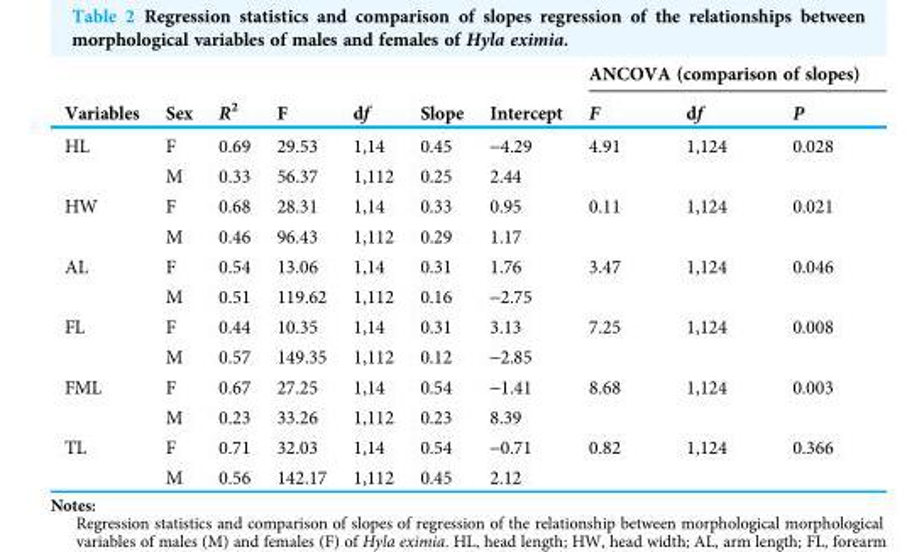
<table><thead><tr><td rowspan="2">Variables</td><td rowspan="2">Sex</td><td rowspan="2">R<sup>2</sup></td><td rowspan="2">F</td><td rowspan="2">df</td><td rowspan="2">Slope</td><td rowspan="2">Intercept</td><td colspan="3">ANCOVA (comparison of slopes)</td></tr><tr><td>F</td><td>df</td><td>P</td></tr></thead><tbody><tr><td rowspan="2">HL</td><td>F</td><td>0.69</td><td>29.53</td><td>1,14</td><td>0.45</td><td>-4.29</td><td rowspan="2">4.91</td><td rowspan="2">1,124</td><td rowspan="2">0.028</td></tr><tr><td>M</td><td>0.33</td><td>56.37</td><td>1,112</td><td>0.25</td><td>2.44</td></tr><tr><td rowspan="2">HW</td><td>F</td><td>0.68</td><td>28.31</td><td>1,14</td><td>0.33</td><td>0.95</td><td rowspan="2">0.11</td><td rowspan="2">1,124</td><td rowspan="2">0.021</td></tr><tr><td>M</td><td>0.46</td><td>96.43</td><td>1,112</td><td>0.29</td><td>1.17</td></tr><tr><td rowspan="2">AL</td><td>F</td><td>0.54</td><td>13.06</td><td>1,14</td><td>0.31</td><td>1.76</td><td rowspan="2">3.47</td><td rowspan="2">1,124</td><td rowspan="2">0.046</td></tr><tr><td>M</td><td>0.51</td><td>119.62</td><td>1,112</td><td>0.16</td><td>-2.75</td></tr><tr><td rowspan="2">FL</td><td>F</td><td>0.44</td><td>10.35</td><td>1,14</td><td>0.31</td><td>3.13</td><td rowspan="2">7.25</td><td rowspan="2">1,124</td><td rowspan="2">0.008</td></tr><tr><td>M</td><td>0.57</td><td>149.35</td><td>1,112</td><td>0.12</td><td>-2.85</td></tr><tr><td rowspan="2">FML</td><td>F</td><td>0.67</td><td>27.25</td><td>1,14</td><td>0.54</td><td>-1.41</td><td rowspan="2">8.68</td><td rowspan="2">1,124</td><td rowspan="2">0.003</td></tr><tr><td>M</td><td>0.23</td><td>33.26</td><td>1,112</td><td>0.23</td><td>8.39</td></tr><tr><td rowspan="2">TL</td><td>F</td><td>0.71</td><td>32.03</td><td>1,14</td><td>0.54</td><td>-0.71</td><td rowspan="2">0.82</td><td rowspan="2">1,124</td><td rowspan="2">0.366</td></tr><tr><td>M</td><td>0.56</td><td>142.17</td><td>1,112</td><td>0.45</td><td>2.12</td></tr></tbody></table>